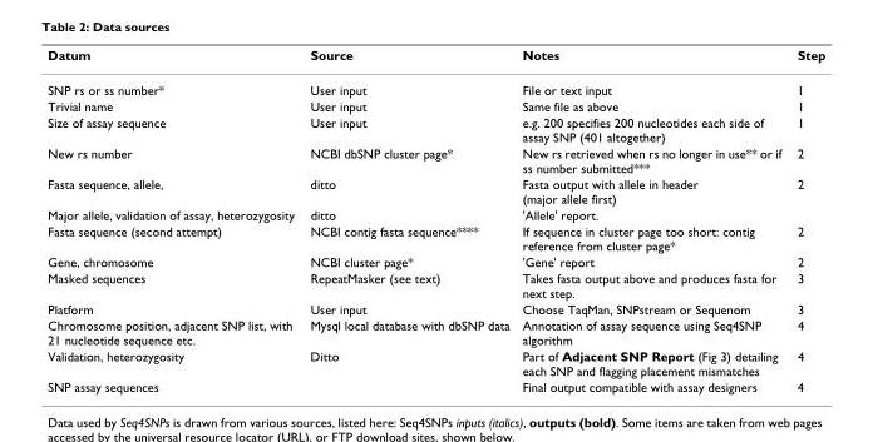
<table><thead><tr><td>Datum</td><td>Source</td><td>Notes</td><td>Step</td></tr></thead><tbody><tr><td>SNP rs or ss number*</td><td>User input</td><td>File or text input</td><td>1</td></tr><tr><td>Trivial name</td><td>User input</td><td>Same file as above</td><td>1</td></tr><tr><td>Size of assay sequence</td><td>User input</td><td>e.g. 200 specifies 200 nucleotides each side of assay SNP (401 altogether)</td><td>1</td></tr><tr><td>New rs number</td><td>NCBI dbSNP cluster page*</td><td>New rs retrieved when rs no longer in use** or if ss number submitted***</td><td>2</td></tr><tr><td>Fasta sequence, allele,</td><td>ditto</td><td>Fasta output with allele in header (major allele first)</td><td>2</td></tr><tr><td>Major allele, validation of assay, heterozygosity</td><td>ditto</td><td>&#x27;Allele&#x27; report.</td><td></td></tr><tr><td>Fasta sequence (second attempt)</td><td>NCBI contig fasta sequence****</td><td>If sequence in cluster page too short: contig reference from cluster page*</td><td>2</td></tr><tr><td>Gene, chromosome</td><td>NCBI cluster page*</td><td>&#x27;Gene&#x27; report</td><td>2</td></tr><tr><td>Masked sequences</td><td>RepeatMasker (see text)</td><td>Takes fasta output above and produces fasta for next step.</td><td>3</td></tr><tr><td>Platform</td><td>User input</td><td>Choose TaqMan, SNPstream or Sequenom</td><td>3</td></tr><tr><td>Chromosome position, adjacent SNP list, with 21 nucleotide sequence etc.</td><td>Mysql local database with dbSNP data</td><td>Annotation of assay sequence using Seq4SNP algorithm</td><td>4</td></tr><tr><td>Validation, heterozygosity</td><td>Ditto</td><td>Part of Adjacent SNP Report (Fig 3) detailing each SNP and flagging placement mismatches</td><td>4</td></tr><tr><td>SNP assay sequences</td><td></td><td>Final output compatible with assay designers</td><td>4</td></tr></tbody></table>